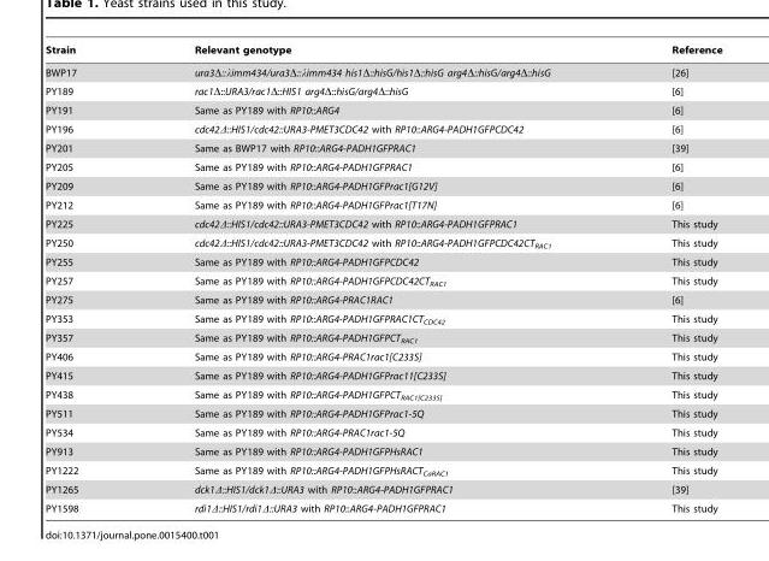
<table><thead><tr><td>Strain</td><td>Relevant genotype</td><td>Reference</td></tr></thead><tbody><tr><td>BWP17</td><td>ura3Δ::λimm434/ura3Δ::λimm434 his1Δ::hisG/his1Δ::hisG arg4Δ::hisG/arg4Δ::hisG</td><td>[26]</td></tr><tr><td>PY189</td><td>rac1Δ::URA3/rac1Δ::HIS1 arg4Δ::hisG/arg4Δ::hisG</td><td>[6]</td></tr><tr><td>PY191</td><td>Same as PY189 with RP10::ARG4</td><td>[6]</td></tr><tr><td>PY196</td><td>cdc42Δ::HIS1/cdc42::URA3-PMET3CDC42 with RP10::ARG4-PADH1GFPCDC42</td><td>[6]</td></tr><tr><td>PY201</td><td>Same as BWP17 with RP10::ARG4-PADH1GFPRAC1</td><td>[39]</td></tr><tr><td>PY205</td><td>Same as PY189 with RP10::ARG4-PADH1GFPRAC1</td><td>[6]</td></tr><tr><td>PY209</td><td>Same as PY189 with RP10::ARG4-PADH1GFPrac1[G12V]</td><td>[6]</td></tr><tr><td>PY212</td><td>Same as PY189 with RP10::ARG4-PADH1GFPrac1[T17N]</td><td>[6]</td></tr><tr><td>PY225</td><td>cdc42Δ::HIS1/cdc42::URA3-PMET3CDC42 with RP10::ARG4-PADH1GFPRAC1</td><td>This study</td></tr><tr><td>PY250</td><td>cdc42Δ::HIS1/cdc42::URA3-PMET3CDC42 with RP10::ARG4-PADH1GFPCDC42CT<sub>RAC1</sub></td><td>This study</td></tr><tr><td>PY255</td><td>Same as PY189 with RP10::ARG4-PADH1GFPCDC42</td><td>This study</td></tr><tr><td>PY257</td><td>Same as PY189 with RP10::ARG4-PADH1GFPCDC42CT<sub>RAC1</sub></td><td>This study</td></tr><tr><td>PY275</td><td>Same as PY189 with RP10::ARG4-PRAC1RAC1</td><td>[6]</td></tr><tr><td>PY353</td><td>Same as PY189 with RP10::ARG4-PADH1GFPRAC1CT<sub>CDC42</sub></td><td>This study</td></tr><tr><td>PY357</td><td>Same as PY189 with RP10::ARG4-PADH1GFPCT<sub>RAC1</sub></td><td>This study</td></tr><tr><td>PY406</td><td>Same as PY189 with RP10::ARG4-PRAC1rac1[C233S]</td><td>This study</td></tr><tr><td>PY415</td><td>Same as PY189 with RP10::ARG4-PADH1GFPrac11[C233S]</td><td>This study</td></tr><tr><td>PY438</td><td>Same as PY189 with RP10::ARG4-PADH1GFPCT<sub>RAC1[C233S]</sub></td><td>This study</td></tr><tr><td>PY511</td><td>Same as PY189 with RP10::ARG4-PADH1GFPrac1-5Q</td><td>This study</td></tr><tr><td>PY534</td><td>Same as PY189 with RP10::ARG4-PRAC1rac1-5Q</td><td>This study</td></tr><tr><td>PY913</td><td>Same as PY189 with RP10::ARG4-PADH1GFPHsRAC1</td><td>This study</td></tr><tr><td>PY1222</td><td>Same as PY189 with RP10::ARG4-PADH1GFPHsRACT<sub>CaRAC1</sub></td><td>This study</td></tr><tr><td>PY1265</td><td>dck1Δ::HIS1/dck1Δ::URA3 with RP10::ARG4-PADH1GFPRAC1</td><td>[39]</td></tr><tr><td>PY1598</td><td>rdi1Δ::HIS1/rdi1Δ::URA3 with RP10::ARG4-PADH1GFPRAC1</td><td>This study</td></tr></tbody></table>